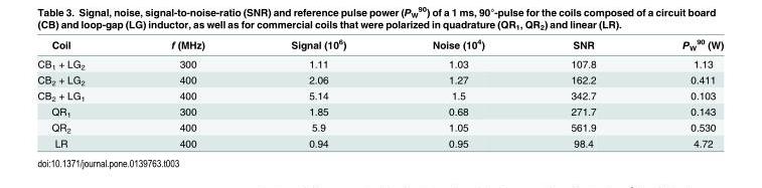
<table><thead><tr><td>Coil</td><td>f (MHz)</td><td>Signal (10<sup>6</sup>)</td><td>Noise (10<sup>4</sup>)</td><td>SNR</td><td>P<sub>W</sub> <sup>90</sup> (W)</td></tr></thead><tbody><tr><td>CB<sub>1</sub> + LG<sub>2</sub></td><td>300</td><td>1.11</td><td>1.03</td><td>107.8</td><td>1.13</td></tr><tr><td>CB<sub>2</sub> + LG<sub>2</sub></td><td>400</td><td>2.06</td><td>1.27</td><td>162.2</td><td>0.411</td></tr><tr><td>CB<sub>2</sub> + LG<sub>1</sub></td><td>400</td><td>5.14</td><td>1.5</td><td>342.7</td><td>0.103</td></tr><tr><td>QR<sub>1</sub></td><td>300</td><td>1.85</td><td>0.68</td><td>271.7</td><td>0.143</td></tr><tr><td>QR<sub>2</sub></td><td>400</td><td>5.9</td><td>1.05</td><td>561.9</td><td>0.530</td></tr><tr><td>LR</td><td>400</td><td>0.94</td><td>0.95</td><td>98.4</td><td>4.72</td></tr></tbody></table>